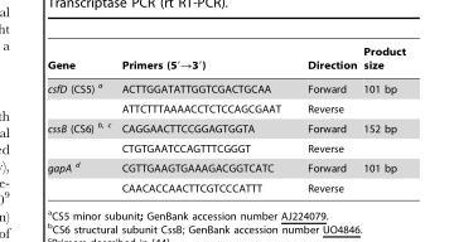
<table><thead><tr><td>Gene</td><td>Primers (5′→3′)</td><td>Direction</td><td>Product size</td></tr></thead><tbody><tr><td rowspan="2">csfD (CS5) a</td><td>ACTTGGATATTGGTCGACTGCAA</td><td>Forward</td><td>101 bp</td></tr><tr><td>ATTCTTTAAAACCTCTCCAGCGAAT</td><td>Reverse</td><td></td></tr><tr><td rowspan="2">cssB (CS6) b, c</td><td>CAGGAACTTCCGGAGTGGTA</td><td>Forward</td><td>152 bp</td></tr><tr><td>CTGTGAATCCAGTTTCGGGT</td><td>Reverse</td><td></td></tr><tr><td rowspan="2">gapA d</td><td>CGTTGAAGTGAAAGACGGTCATC</td><td>Forward</td><td>101 bp</td></tr><tr><td>CAACACCAACTTCGTCCCATTT</td><td>Reverse</td><td></td></tr></tbody></table>